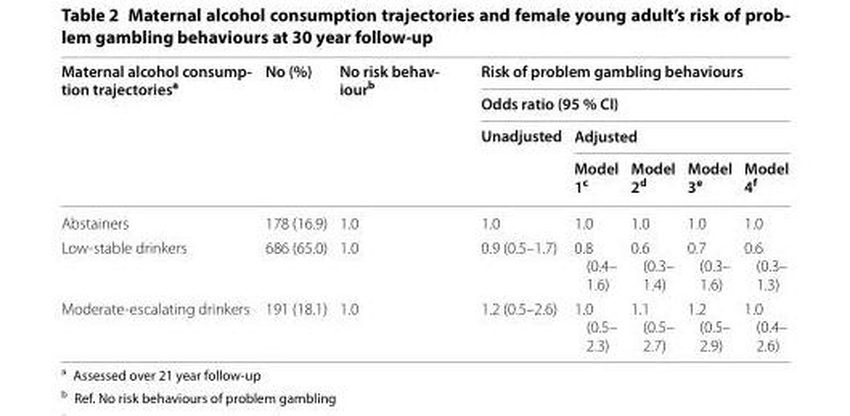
<table><thead><tr><td rowspan="4">Maternal alcohol consump- tion trajectoriesa</td><td rowspan="4">No (%)</td><td rowspan="4">No risk behav- iourb</td><td rowspan="2" colspan="5">Risk of problem gambling behaviours Odds ratio (95 % CI)</td></tr><tr></tr><tr><td rowspan="2">Unadjusted</td><td colspan="4">Adjusted</td></tr><tr><td>Model 1<sup>c</sup></td><td>Model 2<sup>d</sup></td><td>Model 3<sup>e</sup></td><td>Model 4<sup>f</sup></td></tr></thead><tbody><tr><td>Abstainers</td><td>178 (16.9)</td><td>1.0</td><td>1.0</td><td>1.0</td><td>1.0</td><td>1.0</td><td>1.0</td></tr><tr><td>Low-stable drinkers</td><td>686 (65.0)</td><td>1.0</td><td>0.9 (0.5–1.7)</td><td>0.8 (0.4– 1.6)</td><td>0.6 (0.3– 1.4)</td><td>0.7 (0.3– 1.6)</td><td>0.6 (0.3– 1.3)</td></tr><tr><td>Moderate-escalating drinkers</td><td>191 (18.1)</td><td>1.0</td><td>1.2 (0.5–2.6)</td><td>1.0 (0.5– 2.3)</td><td>1.1 (0.5– 2.7)</td><td>1.2 (0.5– 2.9)</td><td>1.0 (0.4– 2.6)</td></tr></tbody></table>